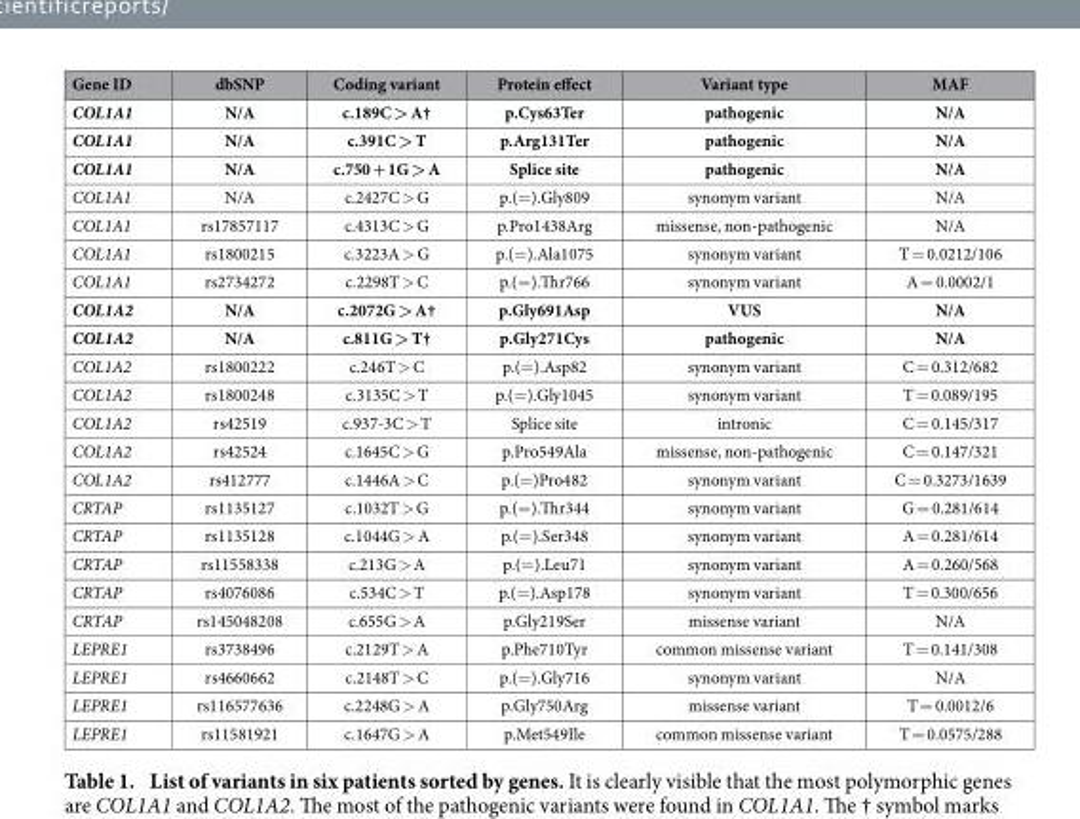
<table><thead><tr><td>Gene ID</td><td>dbSNP</td><td>Coding variant</td><td>Protein effect</td><td>Variant type</td><td>MAF</td></tr></thead><tbody><tr><td>COL1A1</td><td>N/A</td><td>c.189C &gt; A†</td><td>p.Cys63Ter</td><td>pathogenic</td><td>N/A</td></tr><tr><td>COL1A1</td><td>N/A</td><td>c.391C &gt; T</td><td>p.Arg131Ter</td><td>pathogenic</td><td>N/A</td></tr><tr><td>COL1A1</td><td>N/A</td><td>c.750 + 1G &gt; A</td><td>Splice site</td><td>pathogenic</td><td>N/A</td></tr><tr><td>COL1A1</td><td>N/A</td><td>c.2427C &gt; G</td><td>p.(= ).Gly809</td><td>synonym variant</td><td>N/A</td></tr><tr><td>COL1A1</td><td>rs17857117</td><td>c.4313C &gt; G</td><td>p.Pro1438Arg</td><td>missense, non-pathogenic</td><td>N/A</td></tr><tr><td>COL1A1</td><td>rs1800215</td><td>c.3223A &gt; G</td><td>p.(= ).Ala1075</td><td>synonym variant</td><td>T = 0.0212/106</td></tr><tr><td>COL1A1</td><td>rs2734272</td><td>c.2298T &gt; C</td><td>p.(= ).Thr766</td><td>synonym variant</td><td>A = 0.0002/1</td></tr><tr><td>COL1A2</td><td>N/A</td><td>c.2072G &gt; A†</td><td>p.Gly691Asp</td><td>VUS</td><td>N/A</td></tr><tr><td>COL1A2</td><td>N/A</td><td>c.811G &gt; T†</td><td>p.Gly271Cys</td><td>pathogenic</td><td>N/A</td></tr><tr><td>COL1A2</td><td>rs1800222</td><td>c.246T &gt; C</td><td>p.(= ).Asp82</td><td>synonym variant</td><td>C = 0.312/682</td></tr><tr><td>COL1A2</td><td>rs1800248</td><td>c.3135C &gt; T</td><td>p.(= ).Gly1045</td><td>synonym variant</td><td>T = 0.089/195</td></tr><tr><td>COL1A2</td><td>rs42519</td><td>c.937-3C &gt; T</td><td>Splice site</td><td>intronic</td><td>C = 0.145/317</td></tr><tr><td>COL1A2</td><td>rs42524</td><td>c.1645C &gt; G</td><td>p.Pro549Ala</td><td>missense, non-pathogenic</td><td>C = 0.147/321</td></tr><tr><td>COL1A2</td><td>rs412777</td><td>c.1446A &gt; C</td><td>p.(= )Pro482</td><td>synonym variant</td><td>C = 0.3273/1639</td></tr><tr><td>CRTAP</td><td>rs1135127</td><td>c.1032T &gt; G</td><td>p.(= ).Thr344</td><td>synonym variant</td><td>G = 0.281/614</td></tr><tr><td>CRTAP</td><td>rs1135128</td><td>c.1044G &gt; A</td><td>p.(= ).Ser348</td><td>synonym variant</td><td>A = 0.281/614</td></tr><tr><td>CRTAP</td><td>rs11558338</td><td>c.213G &gt; A</td><td>p.(= ).Leu71</td><td>synonym variant</td><td>A = 0.260/568</td></tr><tr><td>CRTAP</td><td>rs4076086</td><td>c.534C &gt; T</td><td>p.(= ).Asp178</td><td>synonym variant</td><td>T = 0.300/656</td></tr><tr><td>CRTAP</td><td>rs145048208</td><td>c.655G &gt; A</td><td>p.Gly219Ser</td><td>missense variant</td><td>N/A</td></tr><tr><td>LEPRE1</td><td>rs3738496</td><td>c.2129T &gt; A</td><td>p.Phe710Tyr</td><td>common missense variant</td><td>T = 0.141/308</td></tr><tr><td>LEPRE1</td><td>rs4660662</td><td>c.2148T &gt; C</td><td>p.(= ).Gly716</td><td>synonym variant</td><td>N/A</td></tr><tr><td>LEPRE1</td><td>rs116577636</td><td>c.2248G &gt; A</td><td>p.Gly750Arg</td><td>missense variant</td><td>T = 0.0012/6</td></tr><tr><td>LEPRE1</td><td>rs11581921</td><td>c.1647G &gt; A</td><td>p.Met549Ile</td><td>common missense variant</td><td>T = 0.0575/288</td></tr></tbody></table>